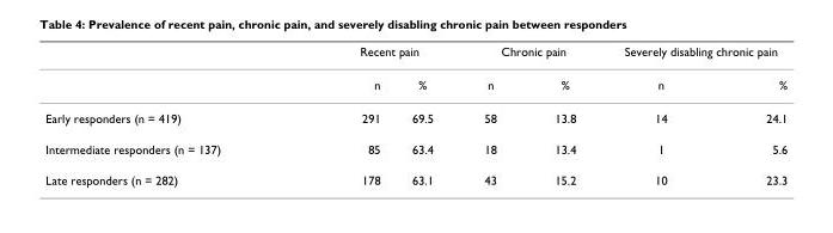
<table><thead><tr><td rowspan="2"></td><td colspan="2">Recent pain</td><td colspan="2">Chronic pain</td><td colspan="2">Severely disabling chronic pain</td></tr><tr><td>n</td><td>%</td><td>n</td><td>%</td><td>n</td><td>%</td></tr></thead><tbody><tr><td>Early responders (n = 419)</td><td>291</td><td>69.5</td><td>58</td><td>13.8</td><td>14</td><td>24.1</td></tr><tr><td>Intermediate responders (n = 137)</td><td>85</td><td>63.4</td><td>18</td><td>13.4</td><td>1</td><td>5.6</td></tr><tr><td>Late responders (n = 282)</td><td>178</td><td>63.1</td><td>43</td><td>15.2</td><td>10</td><td>23.3</td></tr></tbody></table>